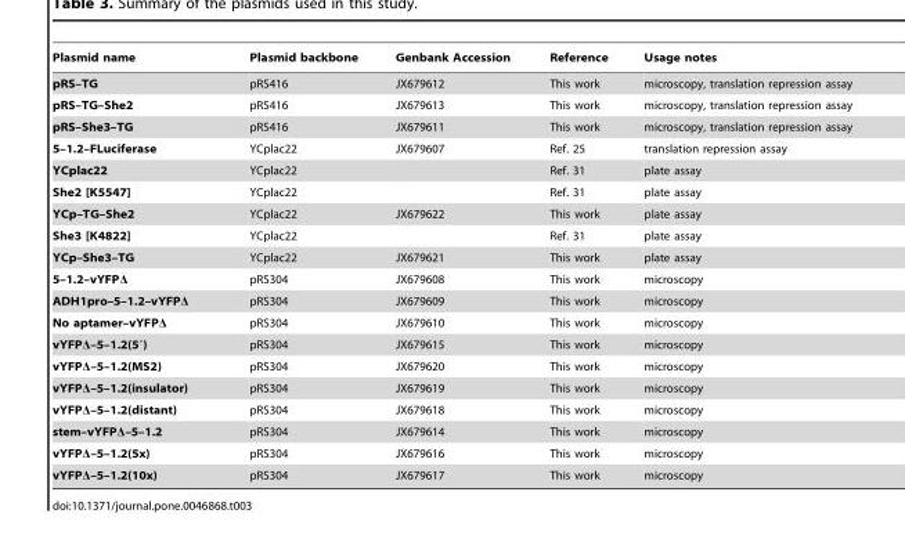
<table><thead><tr><td>Plasmid name</td><td>Plasmid backbone</td><td>Genbank Accession</td><td>Reference</td><td>Usage notes</td></tr></thead><tbody><tr><td>pRS–TG</td><td>pRS416</td><td>JX679612</td><td>This work</td><td>microscopy, translation repression assay</td></tr><tr><td>pRS–TG–She2</td><td>pRS416</td><td>JX679613</td><td>This work</td><td>microscopy, translation repression assay</td></tr><tr><td>pRS–She3–TG</td><td>pRS416</td><td>JX679611</td><td>This work</td><td>microscopy, translation repression assay</td></tr><tr><td>5–1.2–FLuciferase</td><td>YCplac22</td><td>JX679607</td><td>Ref. 25</td><td>translation repression assay</td></tr><tr><td>YCplac22</td><td>YCplac22</td><td></td><td>Ref. 31</td><td>plate assay</td></tr><tr><td>She2 [K5547]</td><td>YCplac22</td><td></td><td>Ref. 31</td><td>plate assay</td></tr><tr><td>YCp–TG–She2</td><td>YCplac22</td><td>JX679622</td><td>This work</td><td>plate assay</td></tr><tr><td>She3 [K4822]</td><td>YCplac22</td><td></td><td>Ref. 31</td><td>plate assay</td></tr><tr><td>YCp–She3–TG</td><td>YCplac22</td><td>JX679621</td><td>This work</td><td>plate assay</td></tr><tr><td>5–1.2–vYFPΔ</td><td>pRS304</td><td>JX679608</td><td>This work</td><td>microscopy</td></tr><tr><td>ADH1pro–5–1.2–vYFPΔ</td><td>pRS304</td><td>JX679609</td><td>This work</td><td>microscopy</td></tr><tr><td>No aptamer–vYFPΔ</td><td>pRS304</td><td>JX679610</td><td>This work</td><td>microscopy</td></tr><tr><td>vYFPΔ–5–1.2(5′)</td><td>pRS304</td><td>JX679615</td><td>This work</td><td>microscopy</td></tr><tr><td>vYFPΔ–5–1.2(MS2)</td><td>pRS304</td><td>JX679620</td><td>This work</td><td>microscopy</td></tr><tr><td>vYFPΔ–5–1.2(insulator)</td><td>pRS304</td><td>JX679619</td><td>This work</td><td>microscopy</td></tr><tr><td>vYFPΔ–5–1.2(distant)</td><td>pRS304</td><td>JX679618</td><td>This work</td><td>microscopy</td></tr><tr><td>stem–vYFPΔ–5–1.2</td><td>pRS304</td><td>JX679614</td><td>This work</td><td>microscopy</td></tr><tr><td>vYFPΔ–5–1.2(5x)</td><td>pRS304</td><td>JX679616</td><td>This work</td><td>microscopy</td></tr><tr><td>vYFPΔ–5–1.2(10x)</td><td>pRS304</td><td>JX679617</td><td>This work</td><td>microscopy</td></tr></tbody></table>